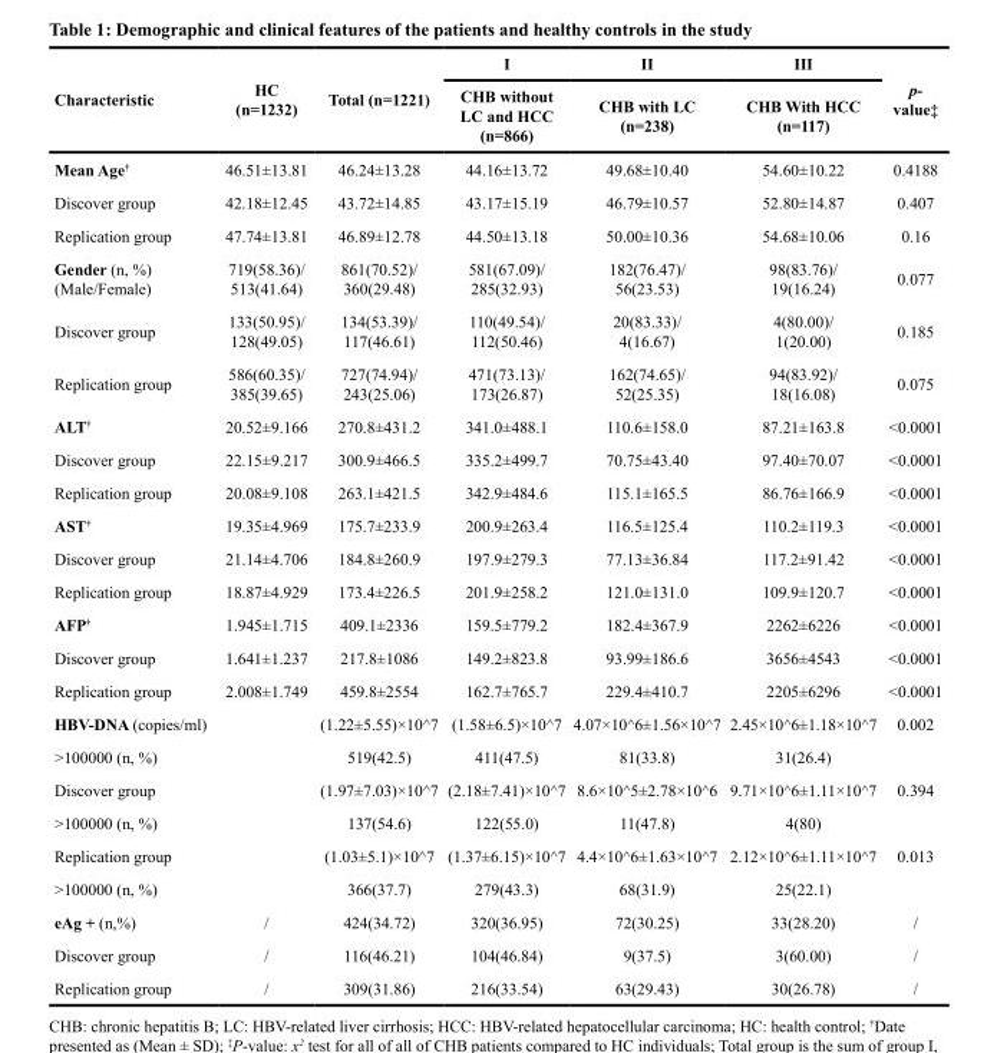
<table><thead><tr><td rowspan="2">Characteristic</td><td rowspan="2">HC (n=1232)</td><td rowspan="2">Total (n=1221)</td><td rowspan="2">I CHB without LC and HCC (n=866)</td><td rowspan="2">II CHB with LC (n=238)</td><td rowspan="2">III CHB With HCC (n=117)</td><td rowspan="2">p- value<sup>‡</sup></td></tr><tr></tr></thead><tbody><tr><td>Mean Age<sup>†</sup></td><td>46.51±13.81</td><td>46.24±13.28</td><td>44.16±13.72</td><td>49.68±10.40</td><td>54.60±10.22</td><td>0.4188</td></tr><tr><td>Discover group</td><td>42.18±12.45</td><td>43.72±14.85</td><td>43.17±15.19</td><td>46.79±10.57</td><td>52.80±14.87</td><td>0.407</td></tr><tr><td>Replication group</td><td>47.74±13.81</td><td>46.89±12.78</td><td>44.50±13.18</td><td>50.00±10.36</td><td>54.68±10.06</td><td>0.16</td></tr><tr><td>Gender (n, %) (Male/Female)</td><td>719(58.36)/ 513(41.64)</td><td>861(70.52)/ 360(29.48)</td><td>581(67.09)/ 285(32.93)</td><td>182(76.47)/ 56(23.53)</td><td>98(83.76)/ 19(16.24)</td><td>0.077</td></tr><tr><td>Discover group</td><td>133(50.95)/ 128(49.05)</td><td>134(53.39)/ 117(46.61)</td><td>110(49.54)/ 112(50.46)</td><td>20(83.33)/ 4(16.67)</td><td>4(80.00)/ 1(20.00)</td><td>0.185</td></tr><tr><td>Replication group</td><td>586(60.35)/ 385(39.65)</td><td>727(74.94)/ 243(25.06)</td><td>471(73.13)/ 173(26.87)</td><td>162(74.65)/ 52(25.35)</td><td>94(83.92)/ 18(16.08)</td><td>0.075</td></tr><tr><td>ALT<sup>†</sup></td><td>20.52±9.166</td><td>270.8±431.2</td><td>341.0±488.1</td><td>110.6±158.0</td><td>87.21±163.8</td><td>&lt;0.0001</td></tr><tr><td>Discover group</td><td>22.15±9.217</td><td>300.9±466.5</td><td>335.2±499.7</td><td>70.75±43.40</td><td>97.40±70.07</td><td>&lt;0.0001</td></tr><tr><td>Replication group</td><td>20.08±9.108</td><td>263.1±421.5</td><td>342.9±484.6</td><td>115.1±165.5</td><td>86.76±166.9</td><td>&lt;0.0001</td></tr><tr><td>AST<sup>†</sup></td><td>19.35±4.969</td><td>175.7±233.9</td><td>200.9±263.4</td><td>116.5±125.4</td><td>110.2±119.3</td><td>&lt;0.0001</td></tr><tr><td>Discover group</td><td>21.14±4.706</td><td>184.8±260.9</td><td>197.9±279.3</td><td>77.13±36.84</td><td>117.2±91.42</td><td>&lt;0.0001</td></tr><tr><td>Replication group</td><td>18.87±4.929</td><td>173.4±226.5</td><td>201.9±258.2</td><td>121.0±131.0</td><td>109.9±120.7</td><td>&lt;0.0001</td></tr><tr><td>AFP<sup>†</sup></td><td>1.945±1.715</td><td>409.1±2336</td><td>159.5±779.2</td><td>182.4±367.9</td><td>2262±6226</td><td>&lt;0.0001</td></tr><tr><td>Discover group</td><td>1.641±1.237</td><td>217.8±1086</td><td>149.2±823.8</td><td>93.99±186.6</td><td>3656±4543</td><td>&lt;0.0001</td></tr><tr><td>Replication group</td><td>2.008±1.749</td><td>459.8±2554</td><td>162.7±765.7</td><td>229.4±410.7</td><td>2205±6296</td><td>&lt;0.0001</td></tr><tr><td>HBV-DNA (copies/ml)</td><td></td><td>(1.22±5.55)×10^7</td><td>(1.58±6.5)×10^7</td><td>4.07×10^6±1.56×10^7</td><td>2.45×10^6±1.18×10^7</td><td>0.002</td></tr><tr><td>&gt;100000 (n, %)</td><td></td><td>519(42.5)</td><td>411(47.5)</td><td>81(33.8)</td><td>31(26.4)</td><td></td></tr><tr><td>Discover group</td><td></td><td>(1.97±7.03)×10^7</td><td>(2.18±7.41)×10^7</td><td>8.6×10^5±2.78×10^6</td><td>9.71×10^6±1.11×10^7</td><td>0.394</td></tr><tr><td>&gt;100000 (n, %)</td><td></td><td>137(54.6)</td><td>122(55.0)</td><td>11(47.8)</td><td>4(80)</td><td></td></tr><tr><td>Replication group</td><td></td><td>(1.03±5.1)×10^7</td><td>(1.37±6.15)×10^7</td><td>4.4×10^6±1.63×10^7</td><td>2.12×10^6±1.11×10^7</td><td>0.013</td></tr><tr><td>&gt;100000 (n, %)</td><td></td><td>366(37.7)</td><td>279(43.3)</td><td>68(31.9)</td><td>25(22.1)</td><td></td></tr><tr><td>eAg + (n,%)</td><td>/</td><td>424(34.72)</td><td>320(36.95)</td><td>72(30.25)</td><td>33(28.20)</td><td>/</td></tr><tr><td>Discover group</td><td>/</td><td>116(46.21)</td><td>104(46.84)</td><td>9(37.5)</td><td>3(60.00)</td><td>/</td></tr><tr><td>Replication group</td><td>/</td><td>309(31.86)</td><td>216(33.54)</td><td>63(29.43)</td><td>30(26.78)</td><td>/</td></tr></tbody></table>